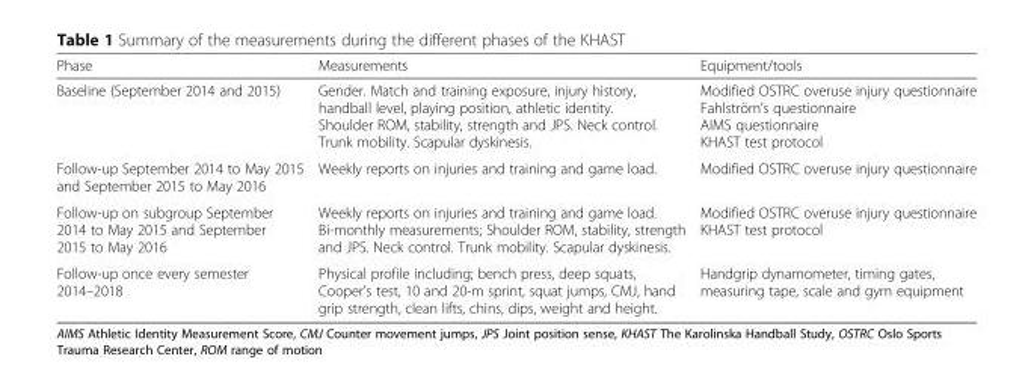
<table><thead><tr><td>Phase</td><td>Measurements</td><td>Equipment/tools</td></tr></thead><tbody><tr><td>Baseline (September 2014 and 2015)</td><td>Gender. Match and training exposure, injury history, handball level, playing position, athletic identity. Shoulder ROM, stability, strength and JPS. Neck control. Trunk mobility. Scapular dyskinesis.</td><td>Modified OSTRC overuse injury questionnaire Fahlström’s questionnaire AIMS questionnaire KHAST test protocol</td></tr><tr><td>Follow-up September 2014 to May 2015 and September 2015 to May 2016</td><td>Weekly reports on injuries and training and game load.</td><td>Modified OSTRC overuse injury questionnaire</td></tr><tr><td>Follow-up on subgroup September 2014 to May 2015 and September 2015 to May 2016</td><td>Weekly reports on injuries and training and game load. Bi-monthly measurements; Shoulder ROM, stability, strength and JPS. Neck control. Trunk mobility. Scapular dyskinesis.</td><td>Modified OSTRC overuse injury questionnaire KHAST test protocol</td></tr><tr><td>Follow-up once every semester 2014–2018</td><td>Physical profile including; bench press, deep squats, Cooper’s test, 10 and 20-m sprint, squat jumps, CMJ, hand grip strength, clean lifts, chins, dips, weight and height.</td><td>Handgrip dynamometer, timing gates, measuring tape, scale and gym equipment</td></tr></tbody></table>